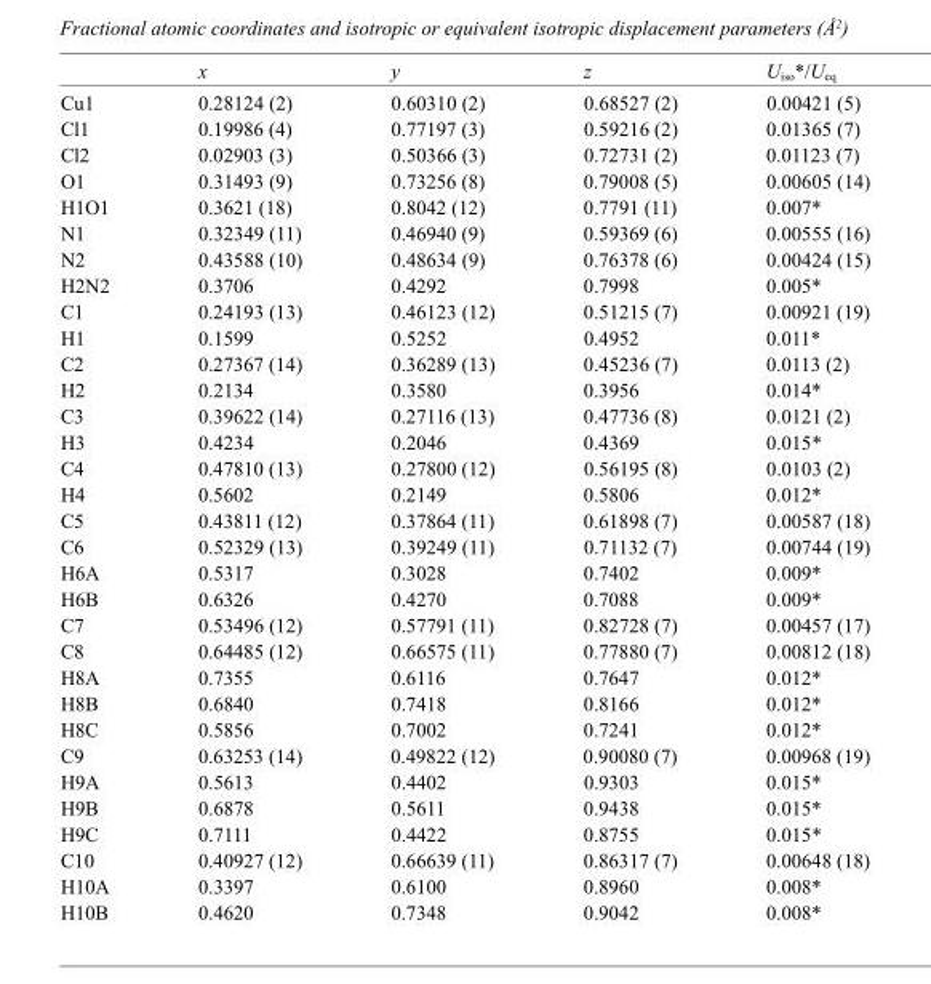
<table><thead><tr><td></td><td>x</td><td>y</td><td>z</td><td>U<sub>iso</sub>*/U<sub>eq</sub></td></tr></thead><tbody><tr><td>Cu1</td><td>0.28124 (2)</td><td>0.60310 (2)</td><td>0.68527 (2)</td><td>0.00421 (5)</td></tr><tr><td>Cl1</td><td>0.19986 (4)</td><td>0.77197 (3)</td><td>0.59216 (2)</td><td>0.01365 (7)</td></tr><tr><td>Cl2</td><td>0.02903 (3)</td><td>0.50366 (3)</td><td>0.72731 (2)</td><td>0.01123 (7)</td></tr><tr><td>O1</td><td>0.31493 (9)</td><td>0.73256 (8)</td><td>0.79008 (5)</td><td>0.00605 (14)</td></tr><tr><td>H1O1</td><td>0.3621 (18)</td><td>0.8042 (12)</td><td>0.7791 (11)</td><td>0.007*</td></tr><tr><td>N1</td><td>0.32349 (11)</td><td>0.46940 (9)</td><td>0.59369 (6)</td><td>0.00555 (16)</td></tr><tr><td>N2</td><td>0.43588 (10)</td><td>0.48634 (9)</td><td>0.76378 (6)</td><td>0.00424 (15)</td></tr><tr><td>H2N2</td><td>0.3706</td><td>0.4292</td><td>0.7998</td><td>0.005*</td></tr><tr><td>C1</td><td>0.24193 (13)</td><td>0.46123 (12)</td><td>0.51215 (7)</td><td>0.00921 (19)</td></tr><tr><td>H1</td><td>0.1599</td><td>0.5252</td><td>0.4952</td><td>0.011*</td></tr><tr><td>C2</td><td>0.27367 (14)</td><td>0.36289 (13)</td><td>0.45236 (7)</td><td>0.0113 (2)</td></tr><tr><td>H2</td><td>0.2134</td><td>0.3580</td><td>0.3956</td><td>0.014*</td></tr><tr><td>C3</td><td>0.39622 (14)</td><td>0.27116 (13)</td><td>0.47736 (8)</td><td>0.0121 (2)</td></tr><tr><td>H3</td><td>0.4234</td><td>0.2046</td><td>0.4369</td><td>0.015*</td></tr><tr><td>C4</td><td>0.47810 (13)</td><td>0.27800 (12)</td><td>0.56195 (8)</td><td>0.0103 (2)</td></tr><tr><td>H4</td><td>0.5602</td><td>0.2149</td><td>0.5806</td><td>0.012*</td></tr><tr><td>C5</td><td>0.43811 (12)</td><td>0.37864 (11)</td><td>0.61898 (7)</td><td>0.00587 (18)</td></tr><tr><td>C6</td><td>0.52329 (13)</td><td>0.39249 (11)</td><td>0.71132 (7)</td><td>0.00744 (19)</td></tr><tr><td>H6A</td><td>0.5317</td><td>0.3028</td><td>0.7402</td><td>0.009*</td></tr><tr><td>H6B</td><td>0.6326</td><td>0.4270</td><td>0.7088</td><td>0.009*</td></tr><tr><td>C7</td><td>0.53496 (12)</td><td>0.57791 (11)</td><td>0.82728 (7)</td><td>0.00457 (17)</td></tr><tr><td>C8</td><td>0.64485 (12)</td><td>0.66575 (11)</td><td>0.77880 (7)</td><td>0.00812 (18)</td></tr><tr><td>H8A</td><td>0.7355</td><td>0.6116</td><td>0.7647</td><td>0.012*</td></tr><tr><td>H8B</td><td>0.6840</td><td>0.7418</td><td>0.8166</td><td>0.012*</td></tr><tr><td>H8C</td><td>0.5856</td><td>0.7002</td><td>0.7241</td><td>0.012*</td></tr><tr><td>C9</td><td>0.63253 (14)</td><td>0.49822 (12)</td><td>0.90080 (7)</td><td>0.00968 (19)</td></tr><tr><td>H9A</td><td>0.5613</td><td>0.4402</td><td>0.9303</td><td>0.015*</td></tr><tr><td>H9B</td><td>0.6878</td><td>0.5611</td><td>0.9438</td><td>0.015*</td></tr><tr><td>H9C</td><td>0.7111</td><td>0.4422</td><td>0.8755</td><td>0.015*</td></tr><tr><td>C10</td><td>0.40927 (12)</td><td>0.66639 (11)</td><td>0.86317 (7)</td><td>0.00648 (18)</td></tr><tr><td>H10A</td><td>0.3397</td><td>0.6100</td><td>0.8960</td><td>0.008*</td></tr><tr><td>H10B</td><td>0.4620</td><td>0.7348</td><td>0.9042</td><td>0.008*</td></tr></tbody></table>